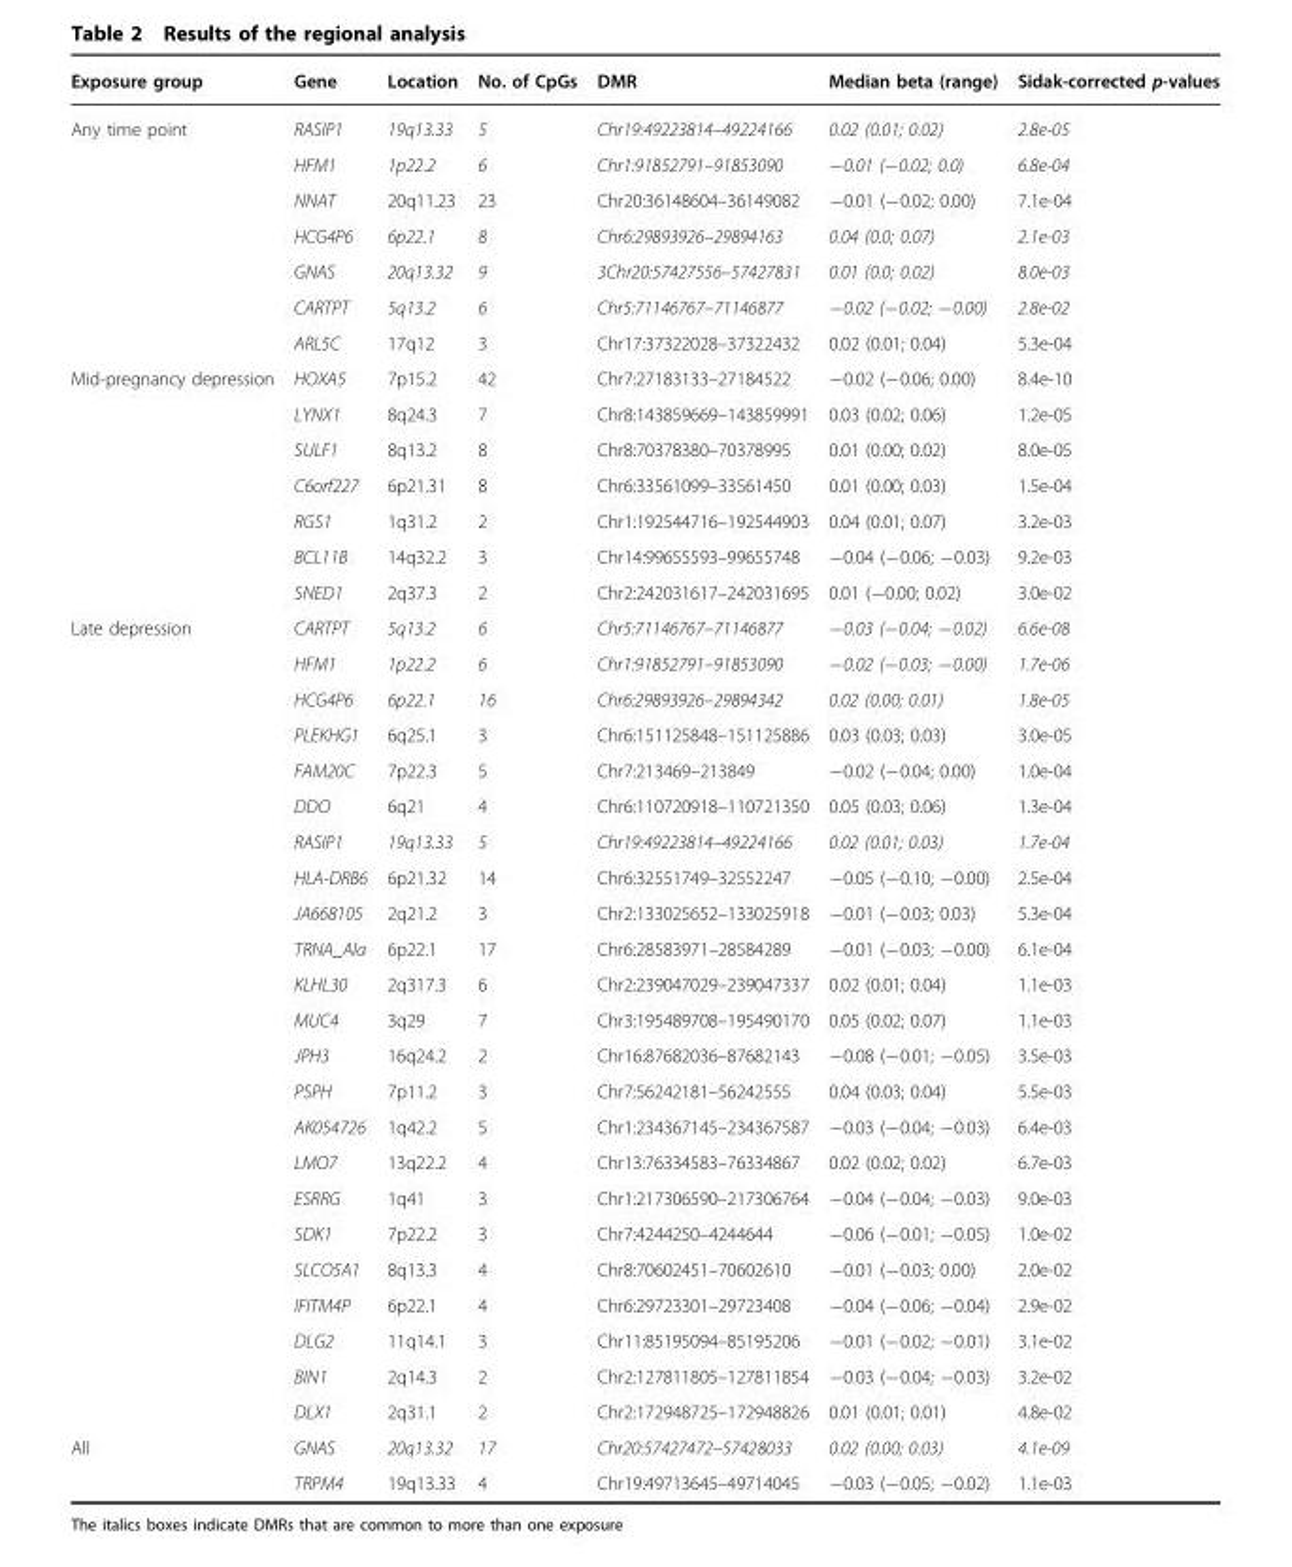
<table><thead><tr><td>Exposure group</td><td>Gene</td><td>Location</td><td>No. of CpGs</td><td>DMR</td><td>Median beta (range)</td><td>Sidak-corrected p-values</td></tr></thead><tbody><tr><td rowspan="7">Any time point</td><td>RASIP1</td><td>19q13.33</td><td>5</td><td>Chr19:49223814–49224166</td><td>0.02 (0.01; 0.02)</td><td>2.8e-05</td></tr><tr><td>HFM1</td><td>1p22.2</td><td>6</td><td>Chr1:91852791–91853090</td><td>−0.01 (−0.02; 0.0)</td><td>6.8e-04</td></tr><tr><td>NNAT</td><td>20q11.23</td><td>23</td><td>Chr20:36148604–36149082</td><td>−0.01 (−0.02; 0.00)</td><td>7.1e-04</td></tr><tr><td>HCG4P6</td><td>6p22.1</td><td>8</td><td>Chr6:29893926–29894163</td><td>0.04 (0.0; 0.07)</td><td>2.1e-03</td></tr><tr><td>GNAS</td><td>20q13.32</td><td>9</td><td>3Chr20:57427556–57427831</td><td>0.01 (0.0; 0.02)</td><td>8.0e-03</td></tr><tr><td>CARTPT</td><td>5q13.2</td><td>6</td><td>Chr5:71146767–71146877</td><td>−0.02 (−0.02; −0.00)</td><td>2.8e-02</td></tr><tr><td>ARL5C</td><td>17q12</td><td>3</td><td>Chr17:37322028–37322432</td><td>0.02 (0.01; 0.04)</td><td>5.3e-04</td></tr><tr><td rowspan="7">Mid-pregnancy depression</td><td>HOXA5</td><td>7p15.2</td><td>42</td><td>Chr7:27183133–27184522</td><td>−0.02 (−0.06; 0.00)</td><td>8.4e-10</td></tr><tr><td>LYNX1</td><td>8q24.3</td><td>7</td><td>Chr8:143859669–143859991</td><td>0.03 (0.02; 0.06)</td><td>1.2e-05</td></tr><tr><td>SULF1</td><td>8q13.2</td><td>8</td><td>Chr8:70378380–70378995</td><td>0.01 (0.00; 0.02)</td><td>8.0e-05</td></tr><tr><td>C6orf227</td><td>6p21.31</td><td>8</td><td>Chr6:33561099–33561450</td><td>0.01 (0.00; 0.03)</td><td>1.5e-04</td></tr><tr><td>RGS1</td><td>1q31.2</td><td>2</td><td>Chr1:192544716–192544903</td><td>0.04 (0.01; 0.07)</td><td>3.2e-03</td></tr><tr><td>BCL11B</td><td>14q32.2</td><td>3</td><td>Chr14:99655593–99655748</td><td>−0.04 (−0.06; −0.03)</td><td>9.2e-03</td></tr><tr><td>SNED1</td><td>2q37.3</td><td>2</td><td>Chr2:242031617–242031695</td><td>0.01 (−0.00; 0.02)</td><td>3.0e-02</td></tr><tr><td rowspan="23">Late depression</td><td>CARTPT</td><td>5q13.2</td><td>6</td><td>Chr5:71146767–71146877</td><td>−0.03 (−0.04; −0.02)</td><td>6.6e-08</td></tr><tr><td>HFM1</td><td>1p22.2</td><td>6</td><td>Chr1:91852791–91853090</td><td>−0.02 (−0.03; −0.00)</td><td>1.7e-06</td></tr><tr><td>HCG4P6</td><td>6p22.1</td><td>16</td><td>Chr6:29893926–29894342</td><td>0.02 (0.00; 0.01)</td><td>1.8e-05</td></tr><tr><td>PLEKHG1</td><td>6q25.1</td><td>3</td><td>Chr6:151125848–151125886</td><td>0.03 (0.03; 0.03)</td><td>3.0e-05</td></tr><tr><td>FAM20C</td><td>7p22.3</td><td>5</td><td>Chr7:213469–213849</td><td>−0.02 (−0.04; 0.00)</td><td>1.0e-04</td></tr><tr><td>DDO</td><td>6q21</td><td>4</td><td>Chr6:110720918–110721350</td><td>0.05 (0.03; 0.06)</td><td>1.3e-04</td></tr><tr><td>RASIP1</td><td>19q13.33</td><td>5</td><td>Chr19:49223814–49224166</td><td>0.02 (0.01; 0.03)</td><td>1.7e-04</td></tr><tr><td>HLA-DRB6</td><td>6p21.32</td><td>14</td><td>Chr6:32551749–32552247</td><td>−0.05 (−0.10; −0.00)</td><td>2.5e-04</td></tr><tr><td>JA668105</td><td>2q21.2</td><td>3</td><td>Chr2:133025652–133025918</td><td>−0.01 (−0.03; 0.03)</td><td>5.3e-04</td></tr><tr><td>TRNA_Ala</td><td>6p22.1</td><td>17</td><td>Chr6:28583971–28584289</td><td>−0.01 (−0.03; −0.00)</td><td>6.1e-04</td></tr><tr><td>KLHL30</td><td>2q317.3</td><td>6</td><td>Chr2:239047029–239047337</td><td>0.02 (0.01; 0.04)</td><td>1.1e-03</td></tr><tr><td>MUC4</td><td>3q29</td><td>7</td><td>Chr3:195489708–195490170</td><td>0.05 (0.02; 0.07)</td><td>1.1e-03</td></tr><tr><td>JPH3</td><td>16q24.2</td><td>2</td><td>Chr16:87682036–87682143</td><td>−0.08 (−0.01; −0.05)</td><td>3.5e-03</td></tr><tr><td>PSPH</td><td>7p11.2</td><td>3</td><td>Chr7:56242181–56242555</td><td>0.04 (0.03; 0.04)</td><td>5.5e-03</td></tr><tr><td>AK054726</td><td>1q42.2</td><td>5</td><td>Chr1:234367145–234367587</td><td>−0.03 (−0.04; −0.03)</td><td>6.4e-03</td></tr><tr><td>LMO7</td><td>13q22.2</td><td>4</td><td>Chr13:76334583–76334867</td><td>0.02 (0.02; 0.02)</td><td>6.7e-03</td></tr><tr><td>ESRRG</td><td>1q41</td><td>3</td><td>Chr1:217306590–217306764</td><td>−0.04 (−0.04; −0.03)</td><td>9.0e-03</td></tr><tr><td>SDK1</td><td>7p22.2</td><td>3</td><td>Chr7:4244250–4244644</td><td>−0.06 (−0.01; −0.05)</td><td>1.0e-02</td></tr><tr><td>SLCO5A1</td><td>8q13.3</td><td>4</td><td>Chr8:70602451–70602610</td><td>−0.01 (−0.03; 0.00)</td><td>2.0e-02</td></tr><tr><td>IFITM4P</td><td>6p22.1</td><td>4</td><td>Chr6:29723301–29723408</td><td>−0.04 (−0.06; −0.04)</td><td>2.9e-02</td></tr><tr><td>DLG2</td><td>11q14.1</td><td>3</td><td>Chr11:85195094–85195206</td><td>−0.01 (−0.02; −0.01)</td><td>3.1e-02</td></tr><tr><td>BIN1</td><td>2q14.3</td><td>2</td><td>Chr2:127811805–127811854</td><td>−0.03 (−0.04; −0.03)</td><td>3.2e-02</td></tr><tr><td>DLX1</td><td>2q31.1</td><td>2</td><td>Chr2:172948725–172948826</td><td>0.01 (0.01; 0.01)</td><td>4.8e-02</td></tr><tr><td rowspan="2">All</td><td>GNAS</td><td>20q13.32</td><td>17</td><td>Chr20:57427472–57428033</td><td>0.02 (0.00; 0.03)</td><td>4.1e-09</td></tr><tr><td>TRPM4</td><td>19q13.33</td><td>4</td><td>Chr19:49713645–49714045</td><td>−0.03 (−0.05; −0.02)</td><td>1.1e-03</td></tr></tbody></table>